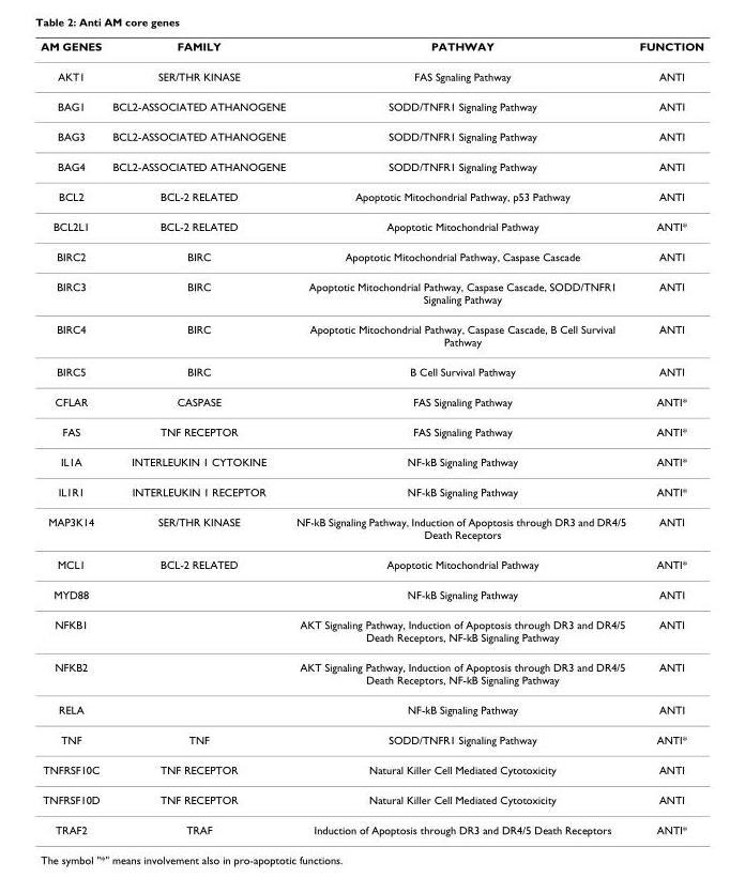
<table><thead><tr><td>AM GENES</td><td>FAMILY</td><td>PATHWAY</td><td>FUNCTION</td></tr></thead><tbody><tr><td>AKT1</td><td>SER/THR KINASE</td><td>FAS Sgnaling Pathway</td><td>ANTI</td></tr><tr><td>BAG1</td><td>BCL2-ASSOCIATED ATHANOGENE</td><td>SODD/TNFR1 Signaling Pathway</td><td>ANTI</td></tr><tr><td>BAG3</td><td>BCL2-ASSOCIATED ATHANOGENE</td><td>SODD/TNFR1 Signaling Pathway</td><td>ANTI</td></tr><tr><td>BAG4</td><td>BCL2-ASSOCIATED ATHANOGENE</td><td>SODD/TNFR1 Signaling Pathway</td><td>ANTI</td></tr><tr><td>BCL2</td><td>BCL-2 RELATED</td><td>Apoptotic Mitochondrial Pathway, p53 Pathway</td><td>ANTI</td></tr><tr><td>BCL2L1</td><td>BCL-2 RELATED</td><td>Apoptotic Mitochondrial Pathway</td><td>ANTI*</td></tr><tr><td>BIRC2</td><td>BIRC</td><td>Apoptotic Mitochondrial Pathway, Caspase Cascade</td><td>ANTI</td></tr><tr><td>BIRC3</td><td>BIRC</td><td>Apoptotic Mitochondrial Pathway, Caspase Cascade, SODD/TNFR1 Signaling Pathway</td><td>ANTI</td></tr><tr><td>BIRC4</td><td>BIRC</td><td>Apoptotic Mitochondrial Pathway, Caspase Cascade, B Cell Survival Pathway</td><td>ANTI</td></tr><tr><td>BIRC5</td><td>BIRC</td><td>B Cell Survival Pathway</td><td>ANTI</td></tr><tr><td>CFLAR</td><td>CASPASE</td><td>FAS Signaling Pathway</td><td>ANTI*</td></tr><tr><td>FAS</td><td>TNF RECEPTOR</td><td>FAS Signaling Pathway</td><td>ANTI*</td></tr><tr><td>IL1A</td><td>INTERLEUKIN 1 CYTOKINE</td><td>NF-kB Signaling Pathway</td><td>ANTI*</td></tr><tr><td>IL1R1</td><td>INTERLEUKIN 1 RECEPTOR</td><td>NF-kB Signaling Pathway</td><td>ANTI*</td></tr><tr><td>MAP3K14</td><td>SER/THR KINASE</td><td>NF-kB Signaling Pathway, Induction of Apoptosis through DR3 and DR4/5 Death Receptors</td><td>ANTI</td></tr><tr><td>MCL1</td><td>BCL-2 RELATED</td><td>Apoptotic Mitochondrial Pathway</td><td>ANTI*</td></tr><tr><td>MYD88</td><td></td><td>NF-kB Signaling Pathway</td><td>ANTI</td></tr><tr><td>NFKB1</td><td></td><td>AKT Signaling Pathway, Induction of Apoptosis through DR3 and DR4/5 Death Receptors, NF-kB Signaling Pathway</td><td>ANTI</td></tr><tr><td>NFKB2</td><td></td><td>AKT Signaling Pathway, Induction of Apoptosis through DR3 and DR4/5 Death Receptors, NF-kB Signaling Pathway</td><td>ANTI</td></tr><tr><td>RELA</td><td></td><td>NF-kB Signaling Pathway</td><td>ANTI</td></tr><tr><td>TNF</td><td>TNF</td><td>SODD/TNFR1 Signaling Pathway</td><td>ANTI*</td></tr><tr><td>TNFRSF10C</td><td>TNF RECEPTOR</td><td>Natural Killer Cell Mediated Cytotoxicity</td><td>ANTI</td></tr><tr><td>TNFRSF10D</td><td>TNF RECEPTOR</td><td>Natural Killer Cell Mediated Cytotoxicity</td><td>ANTI</td></tr><tr><td>TRAF2</td><td>TRAF</td><td>Induction of Apoptosis through DR3 and DR4/5 Death Receptors</td><td>ANTI*</td></tr></tbody></table>